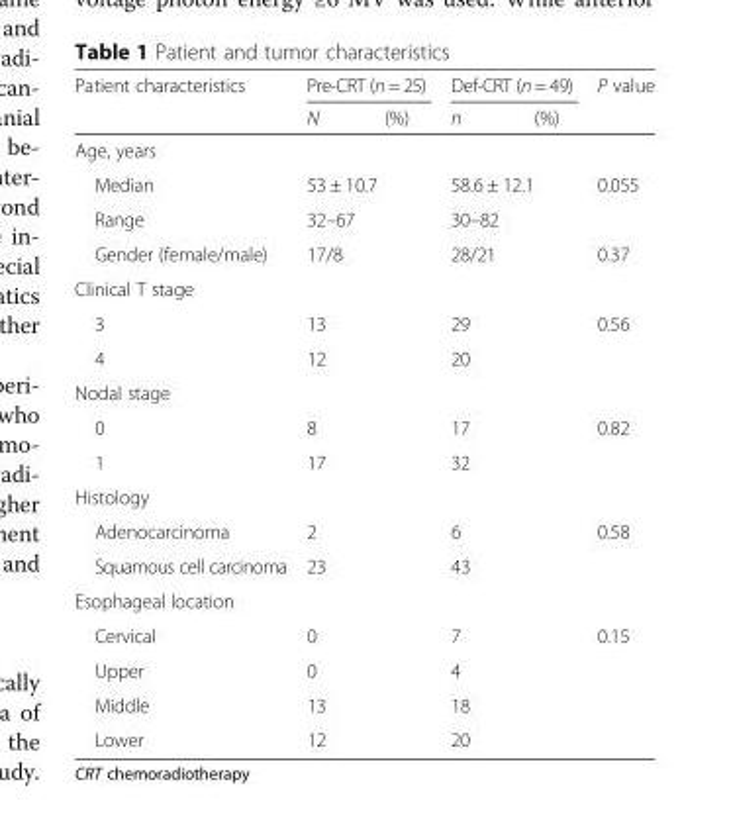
<table><thead><tr><td rowspan="2">Patient characteristics</td><td colspan="2">Pre-CRT (n = 25)</td><td colspan="2">Def-CRT (n = 49)</td><td rowspan="2">P value</td></tr><tr><td>N</td><td>(%)</td><td>n</td><td>(%)</td></tr></thead><tbody><tr><td colspan="6">Age, years</td></tr><tr><td>Median</td><td colspan="2">53 ± 10.7</td><td colspan="2">58.6 ± 12.1</td><td rowspan="2">0.055</td></tr><tr><td>Range</td><td colspan="2">32–67</td><td colspan="2">30–82</td></tr><tr><td>Gender (female/male)</td><td>17/8</td><td></td><td>28/21</td><td></td><td>0.37</td></tr><tr><td colspan="6">Clinical T stage</td></tr><tr><td>3</td><td>13</td><td></td><td>29</td><td></td><td rowspan="2">0.56</td></tr><tr><td>4</td><td>12</td><td></td><td>20</td><td></td></tr><tr><td colspan="6">Nodal stage</td></tr><tr><td>0</td><td>8</td><td></td><td>17</td><td></td><td rowspan="2">0.82</td></tr><tr><td>1</td><td>17</td><td></td><td>32</td><td></td></tr><tr><td colspan="6">Histology</td></tr><tr><td>Adenocarcinoma</td><td>2</td><td></td><td>6</td><td></td><td rowspan="2">0.58</td></tr><tr><td>Squamous cell carcinoma</td><td>23</td><td></td><td>43</td><td></td></tr><tr><td colspan="6">Esophageal location</td></tr><tr><td>Cervical</td><td>0</td><td></td><td>7</td><td></td><td rowspan="4">0.15</td></tr><tr><td>Upper</td><td>0</td><td></td><td>4</td><td></td></tr><tr><td>Middle</td><td>13</td><td></td><td>18</td><td></td></tr><tr><td>Lower</td><td>12</td><td></td><td>20</td><td></td></tr></tbody></table>